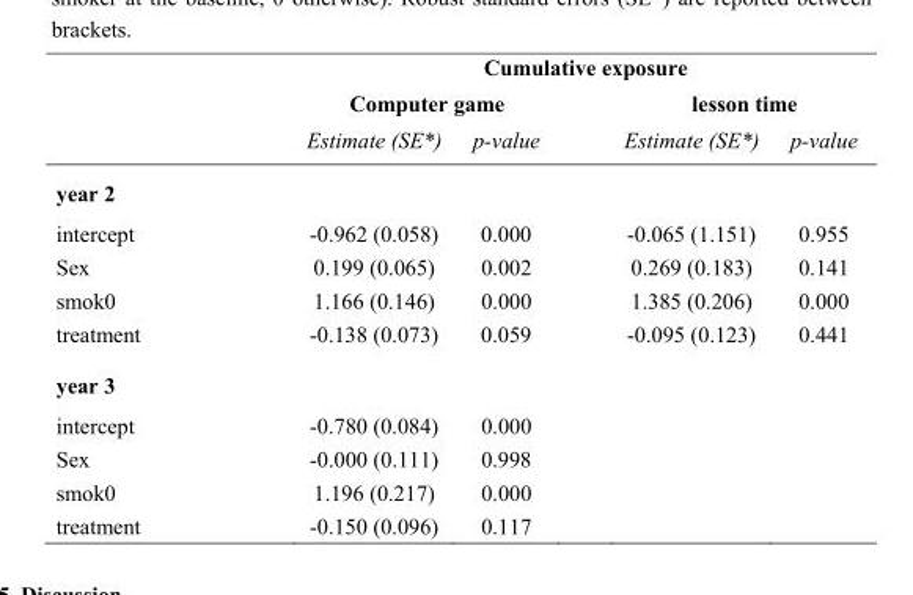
<table><thead><tr><td rowspan="3"></td><td colspan="4">Cumulative exposure</td></tr><tr><td colspan="2">Computer game</td><td colspan="2">lesson time</td></tr><tr><td>Estimate (SE*)</td><td>p-value</td><td>Estimate (SE*)</td><td>p-value</td></tr></thead><tbody><tr><td colspan="5">year 2</td></tr><tr><td>intercept</td><td>-0.962 (0.058)</td><td>0.000</td><td>-0.065 (1.151)</td><td>0.955</td></tr><tr><td>Sex</td><td>0.199 (0.065)</td><td>0.002</td><td>0.269 (0.183)</td><td>0.141</td></tr><tr><td>smok0</td><td>1.166 (0.146)</td><td>0.000</td><td>1.385 (0.206)</td><td>0.000</td></tr><tr><td>treatment</td><td>-0.138 (0.073)</td><td>0.059</td><td>-0.095 (0.123)</td><td>0.441</td></tr><tr><td colspan="5">year 3</td></tr><tr><td>intercept</td><td>-0.780 (0.084)</td><td>0.000</td><td></td><td></td></tr><tr><td>Sex</td><td>-0.000 (0.111)</td><td>0.998</td><td></td><td></td></tr><tr><td>smok0</td><td>1.196 (0.217)</td><td>0.000</td><td></td><td></td></tr><tr><td>treatment</td><td>-0.150 (0.096)</td><td>0.117</td><td></td><td></td></tr></tbody></table>